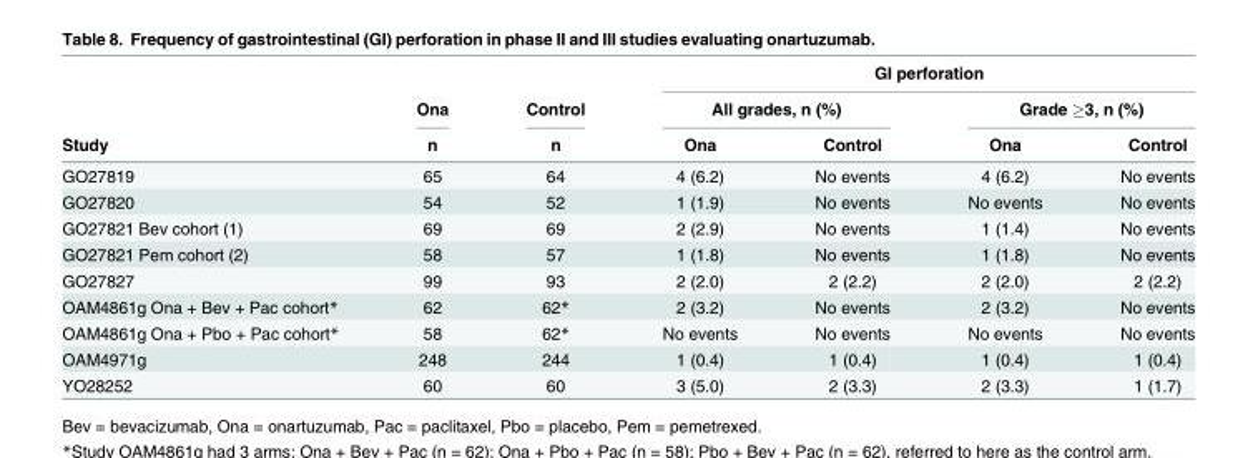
<table><thead><tr><td rowspan="3">Study</td><td rowspan="3">Ona n</td><td rowspan="3">Control n</td><td colspan="4">GI perforation</td></tr><tr><td colspan="2">All grades, n (%)</td><td colspan="2">Grade ≥3, n (%)</td></tr><tr><td>Ona</td><td>Control</td><td>Ona</td><td>Control</td></tr></thead><tbody><tr><td>GO27819</td><td>65</td><td>64</td><td>4 (6.2)</td><td>No events</td><td>4 (6.2)</td><td>No events</td></tr><tr><td>GO27820</td><td>54</td><td>52</td><td>1 (1.9)</td><td>No events</td><td>No events</td><td>No events</td></tr><tr><td>GO27821 Bev cohort (1)</td><td>69</td><td>69</td><td>2 (2.9)</td><td>No events</td><td>1 (1.4)</td><td>No events</td></tr><tr><td>GO27821 Pem cohort (2)</td><td>58</td><td>57</td><td>1 (1.8)</td><td>No events</td><td>1 (1.8)</td><td>No events</td></tr><tr><td>GO27827</td><td>99</td><td>93</td><td>2 (2.0)</td><td>2 (2.2)</td><td>2 (2.0)</td><td>2 (2.2)</td></tr><tr><td>OAM4861g Ona + Bev + Pac cohort*</td><td>62</td><td>62*</td><td>2 (3.2)</td><td>No events</td><td>2 (3.2)</td><td>No events</td></tr><tr><td>OAM4861g Ona + Pbo + Pac cohort*</td><td>58</td><td>62*</td><td>No events</td><td>No events</td><td>No events</td><td>No events</td></tr><tr><td>OAM4971g</td><td>248</td><td>244</td><td>1 (0.4)</td><td>1 (0.4)</td><td>1 (0.4)</td><td>1 (0.4)</td></tr><tr><td>YO28252</td><td>60</td><td>60</td><td>3 (5.0)</td><td>2 (3.3)</td><td>2 (3.3)</td><td>1 (1.7)</td></tr></tbody></table>